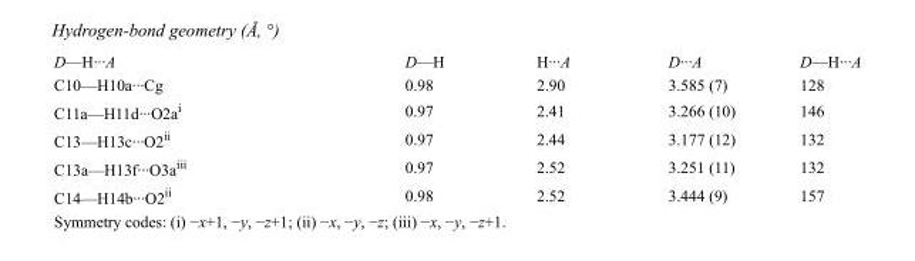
<table><tbody><tr><td>D—H···A</td><td>D—H</td><td>H···A</td><td>D···A</td><td>D—H···A</td></tr><tr><td>C10—H10a···Cg</td><td>0.98</td><td>2.90</td><td>3.585 (7)</td><td>128</td></tr><tr><td>C11a—H11d···O2a<sup>i</sup></td><td>0.97</td><td>2.41</td><td>3.266 (10)</td><td>146</td></tr><tr><td>C13—H13c···O2<sup>ii</sup></td><td>0.97</td><td>2.44</td><td>3.177 (12)</td><td>132</td></tr><tr><td>C13a—H13f···O3a<sup>iii</sup></td><td>0.97</td><td>2.52</td><td>3.251 (11)</td><td>132</td></tr><tr><td>C14—H14b···O2<sup>ii</sup></td><td>0.98</td><td>2.52</td><td>3.444 (9)</td><td>157</td></tr></tbody></table>